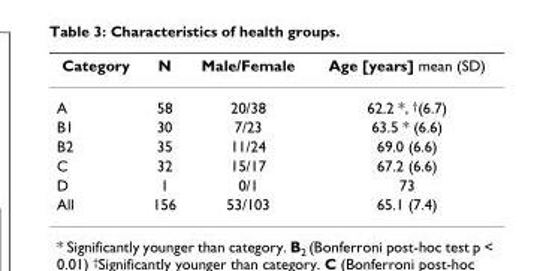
<table><thead><tr><td>Category</td><td>N</td><td>Male/Female</td><td>Age [years] mean (SD)</td></tr></thead><tbody><tr><td>A</td><td>58</td><td>20/38</td><td>62.2 *, <sup>†</sup>(6.7)</td></tr><tr><td>B1</td><td>30</td><td>7/23</td><td>63.5 * (6.6)</td></tr><tr><td>B2</td><td>35</td><td>11/24</td><td>69.0 (6.6)</td></tr><tr><td>C</td><td>32</td><td>15/17</td><td>67.2 (6.6)</td></tr><tr><td>D</td><td>1</td><td>0/1</td><td>73</td></tr><tr><td>All</td><td>156</td><td>53/103</td><td>65.1 (7.4)</td></tr></tbody></table>